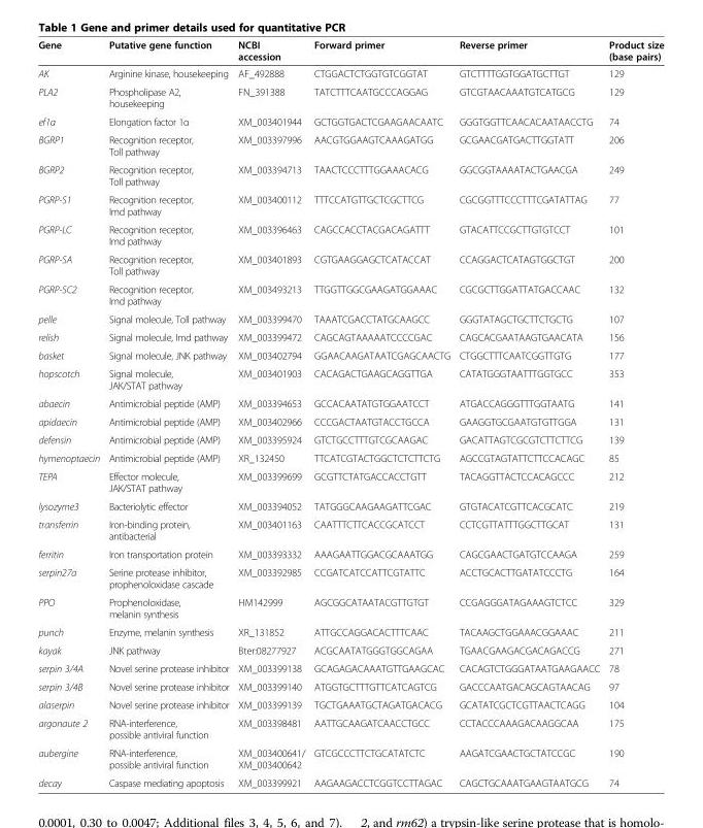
<table><thead><tr><td>Gene</td><td>Putative gene function</td><td>NCBI accession</td><td>Forward primer</td><td>Reverse primer</td><td>Product size (base pairs)</td></tr></thead><tbody><tr><td>AK</td><td>Arginine kinase, housekeeping</td><td>AF_492888</td><td>CTGGACTCTGGTGTCGGTAT</td><td>GTCTTTTGGTGGATGCTTGT</td><td>129</td></tr><tr><td>PLA2</td><td>Phospholipase A2, housekeeping</td><td>FN_391388</td><td>TATCTTTCAATGCCCAGGAG</td><td>GTCGTAACAAATGTCATGCG</td><td>129</td></tr><tr><td>ef1α</td><td>Elongation factor 1α</td><td>XM_003401944</td><td>GCTGGTGACTCGAAGAACAATC</td><td>GGGTGGTTCAACACAATAACCTG</td><td>74</td></tr><tr><td>BGRP1</td><td>Recognition receptor, Toll pathway</td><td>XM_003397996</td><td>AACGTGGAAGTCAAAGATGG</td><td>GCGAACGATGACTTGGTATT</td><td>206</td></tr><tr><td>BGRP2</td><td>Recognition receptor, Toll pathway</td><td>XM_003394713</td><td>TAACTCCCTTTGGAAACACG</td><td>GGCGGTAAAATACTGAACGA</td><td>249</td></tr><tr><td>PGRP-S1</td><td>Recognition receptor, Imd pathway</td><td>XM_003400112</td><td>TTTCCATGTTGCTCGCTTCG</td><td>CGCGGTTTCCCTTTCGATATTAG</td><td>77</td></tr><tr><td>PGRP-LC</td><td>Recognition receptor, Imd pathway</td><td>XM_003396463</td><td>CAGCCACCTACGACAGATTT</td><td>GTACATTCCGCTTGTGTCCT</td><td>101</td></tr><tr><td>PGRP-SA</td><td>Recognition receptor, Toll pathway</td><td>XM_003401893</td><td>CGTGAAGGAGCTCATACCAT</td><td>CCAGGACTCATAGTGGCTGT</td><td>200</td></tr><tr><td>PGRP-SC2</td><td>Recognition receptor, Imd pathway</td><td>XM_003493213</td><td>TTGGTTGGCGAAGATGGAAAC</td><td>CGCGCTTGGATTATGACCAAC</td><td>132</td></tr><tr><td>pelle</td><td>Signal molecule, Toll pathway</td><td>XM_003399470</td><td>TAAATCGACCTATGCAAGCC</td><td>GGGTATAGCTGCTTCTGCTG</td><td>107</td></tr><tr><td>relish</td><td>Signal molecule, Imd pathway</td><td>XM_003399472</td><td>CAGCAGTAAAAATCCCCGAC</td><td>CAGCACGAATAAGTGAACATA</td><td>156</td></tr><tr><td>basket</td><td>Signal molecule, JNK pathway</td><td>XM_003402794</td><td>GGAACAAGATAATCGAGCAACTG</td><td>CTGGCTTTCAATCGGTTGTG</td><td>177</td></tr><tr><td>hopscotch</td><td>Signal molecule, JAK/STAT pathway</td><td>XM_003401903</td><td>CACAGACTGAAGCAGGTTGA</td><td>CATATGGGTAATTTGGTGCC</td><td>353</td></tr><tr><td>abaecin</td><td>Antimicrobial peptide (AMP)</td><td>XM_003394653</td><td>GCCACAATATGTGGAATCCT</td><td>ATGACCAGGGTTTGGTAATG</td><td>141</td></tr><tr><td>apidaecin</td><td>Antimicrobial peptide (AMP)</td><td>XM_003402966</td><td>CCCGACTAATGTACCTGCCA</td><td>GAAGGTGCGAATGTGTTGGA</td><td>131</td></tr><tr><td>defensin</td><td>Antimicrobial peptide (AMP)</td><td>XM_003395924</td><td>GTCTGCCTTTGTCGCAAGAC</td><td>GACATTAGTCGCGTCTTCTTCG</td><td>139</td></tr><tr><td>hymenoptaecin</td><td>Antimicrobial peptide (AMP)</td><td>XR_132450</td><td>TTCATCGTACTGGCTCTCTTCTG</td><td>AGCCGTAGTATTCTTCCACAGC</td><td>85</td></tr><tr><td>TEPA</td><td>Effector molecule, JAK/STAT pathway</td><td>XM_003399699</td><td>GCGTTCTATGACCACCTGTT</td><td>TACAGGTTACTCCACAGCCC</td><td>212</td></tr><tr><td>lysozyme3</td><td>Bacteriolytic effector</td><td>XM_003394052</td><td>TATGGGCAAGAAGATTCGAC</td><td>GTGTACATCGTTCACGCATC</td><td>219</td></tr><tr><td>transferrin</td><td>Iron-binding protein, antibacterial</td><td>XM_003401163</td><td>CAATTTCTTCACCGCATCCT</td><td>CCTCGTTATTTGGCTTGCAT</td><td>131</td></tr><tr><td>ferritin</td><td>Iron transportation protein</td><td>XM_003393332</td><td>AAAGAATTGGACGCAAATGG</td><td>CAGCGAACTGATGTCCAAGA</td><td>259</td></tr><tr><td>serpin27a</td><td>Serine protease inhibitor, prophenoloxidase cascade</td><td>XM_003392985</td><td>CCGATCATCCATTCGTATTC</td><td>ACCTGCACTTGATATCCCTG</td><td>164</td></tr><tr><td>PPO</td><td>Prophenoloxidase, melanin synthesis</td><td>HM142999</td><td>AGCGGCATAATACGTTGTGT</td><td>CCGAGGGATAGAAAGTCTCC</td><td>329</td></tr><tr><td>punch</td><td>Enzyme, melanin synthesis</td><td>XR_131852</td><td>ATTGCCAGGACACTTTCAAC</td><td>TACAAGCTGGAAACGGAAAC</td><td>211</td></tr><tr><td>kayak</td><td>JNK pathway</td><td>Bter:08277927</td><td>ACGCAATATGGGTGGCAGAA</td><td>TGAACGAAGACGACAGACCG</td><td>271</td></tr><tr><td>serpin 3/4A</td><td>Novel serine protease inhibitor</td><td>XM_003399138</td><td>GCAGAGACAAATGTTGAAGCAC</td><td>CACAGTCTGGGATAATGAAGAACC</td><td>78</td></tr><tr><td>serpin 3/4B</td><td>Novel serine protease inhibitor</td><td>XM_003399140</td><td>ATGGTGCTTTGTTCATCAGTCG</td><td>GACCCAATGACAGCAGTAACAG</td><td>97</td></tr><tr><td>alaserpin</td><td>Novel serine protease inhibitor</td><td>XM_003399139</td><td>TGCTGAAATGCTAGATGACACG</td><td>GCATATCGCTCGTTAACTCAGG</td><td>104</td></tr><tr><td>argonaute 2</td><td>RNA-interference, possible antiviral function</td><td>XM_003398481</td><td>AATTGCAAGATCAACCTGCC</td><td>CCTACCCAAAGACAAGGCAA</td><td>175</td></tr><tr><td>aubergine</td><td>RNA-interference, possible antiviral function</td><td>XM_003400641/ XM_003400642</td><td>GTCGCCCTTCTGCATATCTC</td><td>AAGATCGAACTGCTATCCGC</td><td>190</td></tr><tr><td>decay</td><td>Caspase mediating apoptosis</td><td>XM_003399921</td><td>AAGAAGACCTCGGTCCTTAGAC</td><td>CAGCTGCAAATGAAGTAATGCG</td><td>74</td></tr></tbody></table>